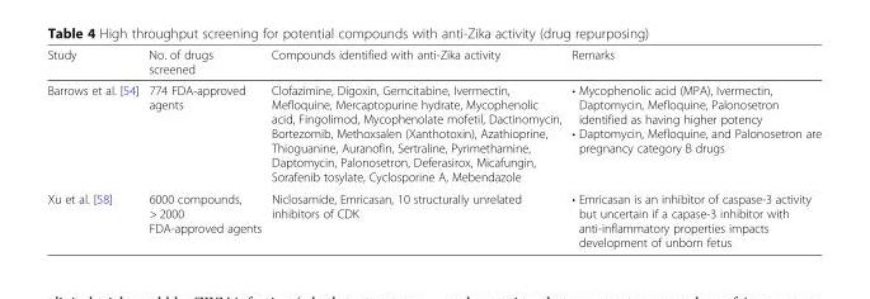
<table><thead><tr><td>Study</td><td>No. of drugs screened</td><td>Compounds identified with anti-Zika activity</td><td>Remarks</td></tr></thead><tbody><tr><td>Barrows et al. [54]</td><td>774 FDA-approved agents</td><td>Clofazimine, Digoxin, Gemcitabine, Ivermectin, Mefloquine, Mercaptopurine hydrate, Mycophenolic acid, Fingolimod, Mycophenolate mofetil, Dactinomycin, Bortezomib, Methoxsalen (Xanthotoxin), Azathioprine, Thioguanine, Auranofin, Sertraline, Pyrimethamine, Daptomycin, Palonosetron, Deferasirox, Micafungin, Sorafenib tosylate, Cyclosporine A, Mebendazole</td><td>• Mycophenolic acid (MPA), Ivermectin, Daptomycin, Mefloquine, Palonosetron identified as having higher potency • Daptomycin, Mefloquine, and Palonosetron are pregnancy category B drugs</td></tr><tr><td>Xu et al. [58]</td><td>6000 compounds, &gt; 2000 FDA-approved agents</td><td>Niclosamide, Emricasan, 10 structurally unrelated inhibitors of CDK</td><td>• Emricasan is an inhibitor of caspase-3 activity but uncertain if a capase-3 inhibitor with anti-inflammatory properties impacts development of unborn fetus</td></tr></tbody></table>